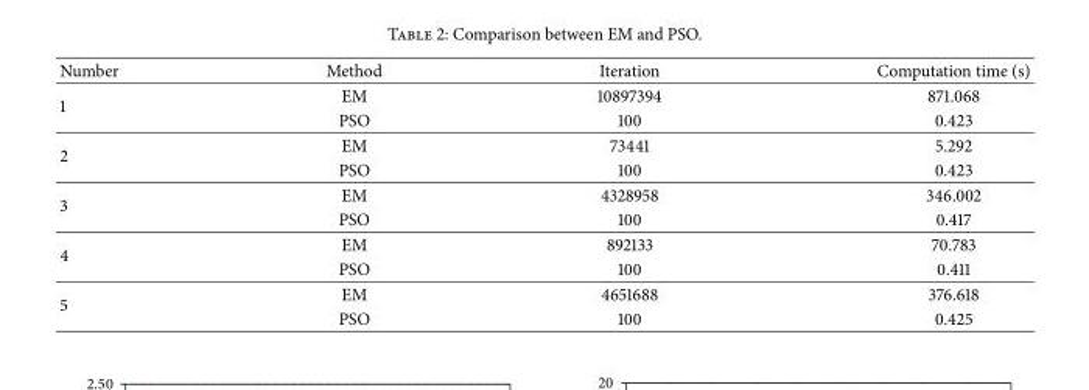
<table><thead><tr><td>Number</td><td>Method</td><td>Iteration</td><td>Computation time (s)</td></tr></thead><tbody><tr><td rowspan="2">1</td><td>EM</td><td>10897394</td><td>871.068</td></tr><tr><td>PSO</td><td>100</td><td>0.423</td></tr><tr><td rowspan="2">2</td><td>EM</td><td>73441</td><td>5.292</td></tr><tr><td>PSO</td><td>100</td><td>0.423</td></tr><tr><td rowspan="2">3</td><td>EM</td><td>4328958</td><td>346.002</td></tr><tr><td>PSO</td><td>100</td><td>0.417</td></tr><tr><td rowspan="2">4</td><td>EM</td><td>892133</td><td>70.783</td></tr><tr><td>PSO</td><td>100</td><td>0.411</td></tr><tr><td rowspan="2">5</td><td>EM</td><td>4651688</td><td>376.618</td></tr><tr><td>PSO</td><td>100</td><td>0.425</td></tr></tbody></table>